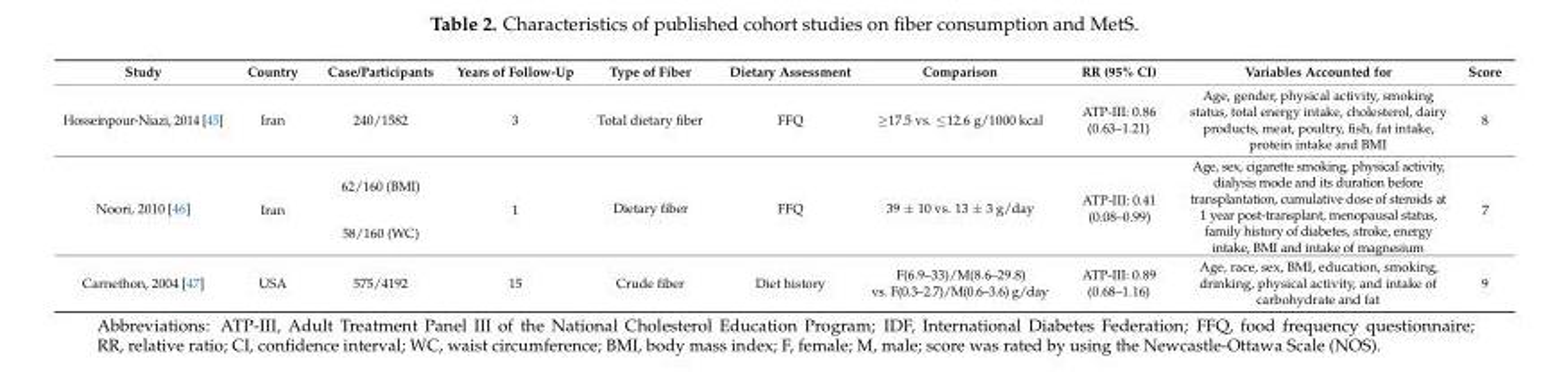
<table><thead><tr><td>Study</td><td>Country</td><td>Case/Participants</td><td>Years of Follow-Up</td><td>Type of Fiber</td><td>Dietary Assessment</td><td>Comparison</td><td>RR (95% CI)</td><td>Variables Accounted for</td><td>Score</td></tr></thead><tbody><tr><td>Hosseinpour-Niazi, 2014 [45]</td><td>Iran</td><td>240/1582</td><td>3</td><td>Total dietary fiber</td><td>FFQ</td><td>≥17.5 vs. ≤12.6 g/1000 kcal</td><td>ATP-III: 0.86 (0.63–1.21)</td><td>Age, gender, physical activity, smoking status, total energy intake, cholesterol, dairy products, meat, poultry, fish, fat intake, protein intake and BMI</td><td>8</td></tr><tr><td rowspan="2">Noori, 2010 [46]</td><td rowspan="2">Iran</td><td>62/160 (BMI)</td><td rowspan="2">1</td><td rowspan="2">Dietary fiber</td><td rowspan="2">FFQ</td><td rowspan="2">39 ± 10 vs. 13 ± 3 g/day</td><td rowspan="2">ATP-III: 0.41 (0.08–0.99)</td><td rowspan="2">Age, sex, cigarette smoking, physical activity, dialysis mode and its duration before transplantation, cumulative dose of steroids at 1 year post-transplant, menopausal status, family history of diabetes, stroke, energy intake, BMI and intake of magnesium</td><td rowspan="2">7</td></tr><tr><td>58/160 (WC)</td></tr><tr><td>Carnethon, 2004 [47]</td><td>USA</td><td>575/4192</td><td>15</td><td>Crude fiber</td><td>Diet history</td><td>F(6.9–33)/M(8.6–29.8) vs. F(0.3–2.7)/M(0.6–3.6) g/day</td><td>ATP-III: 0.89 (0.68–1.16)</td><td>Age, race, sex, BMI, education, smoking, drinking, physical activity, and intake of carbohydrate and fat</td><td>9</td></tr></tbody></table>